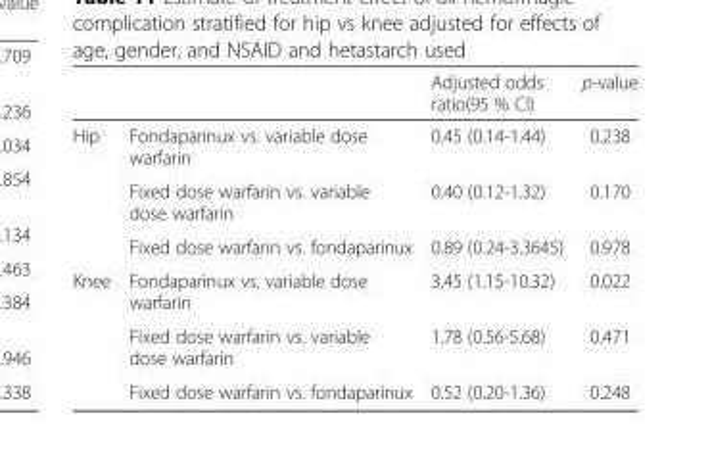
<table><thead><tr><td></td><td></td><td>Adjusted odds ratio(95 % CI)</td><td>p-value</td></tr></thead><tbody><tr><td rowspan="3">Hip</td><td>Fondaparinux vs. variable dose warfarin</td><td>0.45 (0.14-1.44)</td><td>0.238</td></tr><tr><td>Fixed dose warfarin vs. variable dose warfarin</td><td>0.40 (0.12-1.32)</td><td>0.170</td></tr><tr><td>Fixed dose warfarin vs. fondaparinux</td><td>0.89 (0.24-3.3645)</td><td>0.978</td></tr><tr><td rowspan="3">Knee</td><td>Fondaparinux vs. variable dose warfarin</td><td>3.45 (1.15-10.32)</td><td>0.022</td></tr><tr><td>Fixed dose warfarin vs. variable dose warfarin</td><td>1.78 (0.56-5.68)</td><td>0.471</td></tr><tr><td>Fixed dose warfarin vs. fondaparinux</td><td>0.52 (0.20-1.36)</td><td>0.248</td></tr></tbody></table>